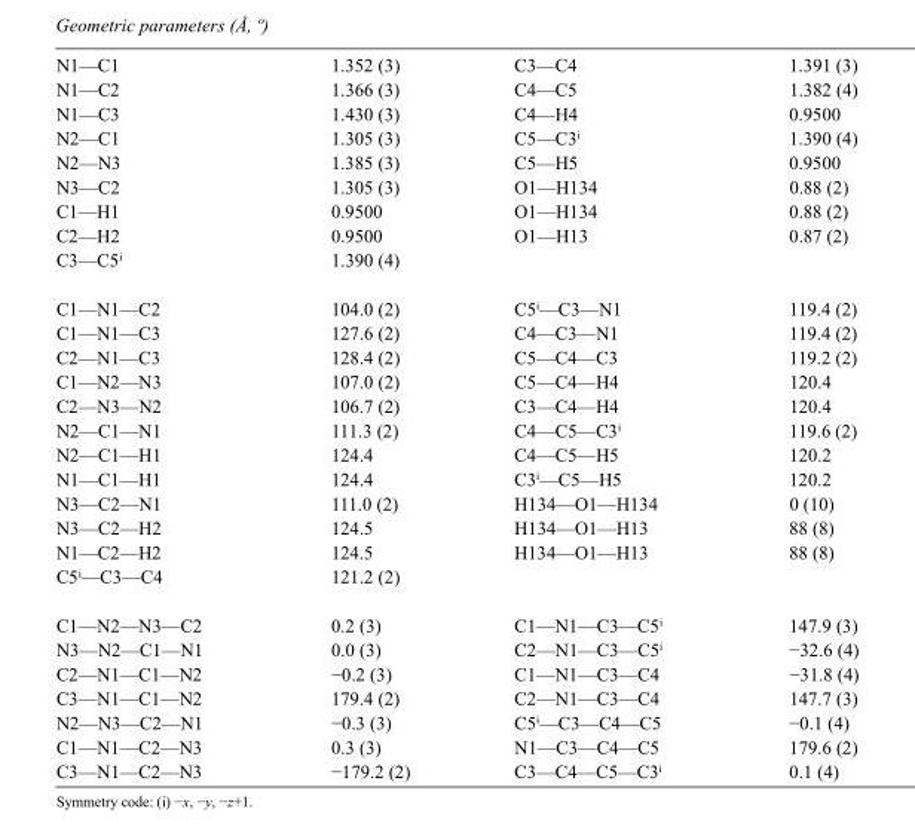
<table><tbody><tr><td>N1—C1</td><td>1.352 (3)</td><td>C3—C4</td><td>1.391 (3)</td></tr><tr><td>N1—C2</td><td>1.366 (3)</td><td>C4—C5</td><td>1.382 (4)</td></tr><tr><td>N1—C3</td><td>1.430 (3)</td><td>C4—H4</td><td>0.9500</td></tr><tr><td>N2—C1</td><td>1.305 (3)</td><td>C5—C3<sup>i</sup></td><td>1.390 (4)</td></tr><tr><td>N2—N3</td><td>1.385 (3)</td><td>C5—H5</td><td>0.9500</td></tr><tr><td>N3—C2</td><td>1.305 (3)</td><td>O1—H134</td><td>0.88 (2)</td></tr><tr><td>C1—H1</td><td>0.9500</td><td>O1—H134</td><td>0.88 (2)</td></tr><tr><td>C2—H2</td><td>0.9500</td><td>O1—H13</td><td>0.87 (2)</td></tr><tr><td>C3—C5<sup>i</sup></td><td>1.390 (4)</td><td></td><td></td></tr><tr><td>C1—N1—C2</td><td>104.0 (2)</td><td>C5<sup>i</sup>—C3—N1</td><td>119.4 (2)</td></tr><tr><td>C1—N1—C3</td><td>127.6 (2)</td><td>C4—C3—N1</td><td>119.4 (2)</td></tr><tr><td>C2—N1—C3</td><td>128.4 (2)</td><td>C5—C4—C3</td><td>119.2 (2)</td></tr><tr><td>C1—N2—N3</td><td>107.0 (2)</td><td>C5—C4—H4</td><td>120.4</td></tr><tr><td>C2—N3—N2</td><td>106.7 (2)</td><td>C3—C4—H4</td><td>120.4</td></tr><tr><td>N2—C1—N1</td><td>111.3 (2)</td><td>C4—C5—C3<sup>i</sup></td><td>119.6 (2)</td></tr><tr><td>N2—C1—H1</td><td>124.4</td><td>C4—C5—H5</td><td>120.2</td></tr><tr><td>N1—C1—H1</td><td>124.4</td><td>C3<sup>i</sup>—C5—H5</td><td>120.2</td></tr><tr><td>N3—C2—N1</td><td>111.0 (2)</td><td>H134—O1—H134</td><td>0 (10)</td></tr><tr><td>N3—C2—H2</td><td>124.5</td><td>H134—O1—H13</td><td>88 (8)</td></tr><tr><td>N1—C2—H2</td><td>124.5</td><td>H134—O1—H13</td><td>88 (8)</td></tr><tr><td>C5<sup>i</sup>—C3—C4</td><td>121.2 (2)</td><td></td><td></td></tr><tr><td>C1—N2—N3—C2</td><td>0.2 (3)</td><td>C1—N1—C3—C5<sup>i</sup></td><td>147.9 (3)</td></tr><tr><td>N3—N2—C1—N1</td><td>0.0 (3)</td><td>C2—N1—C3—C5<sup>i</sup></td><td>−32.6 (4)</td></tr><tr><td>C2—N1—C1—N2</td><td>−0.2 (3)</td><td>C1—N1—C3—C4</td><td>−31.8 (4)</td></tr><tr><td>C3—N1—C1—N2</td><td>179.4 (2)</td><td>C2—N1—C3—C4</td><td>147.7 (3)</td></tr><tr><td>N2—N3—C2—N1</td><td>−0.3 (3)</td><td>C5<sup>i</sup>—C3—C4—C5</td><td>−0.1 (4)</td></tr><tr><td>C1—N1—C2—N3</td><td>0.3 (3)</td><td>N1—C3—C4—C5</td><td>179.6 (2)</td></tr><tr><td>C3—N1—C2—N3</td><td>−179.2 (2)</td><td>C3—C4—C5—C3<sup>i</sup></td><td>0.1 (4)</td></tr></tbody></table>